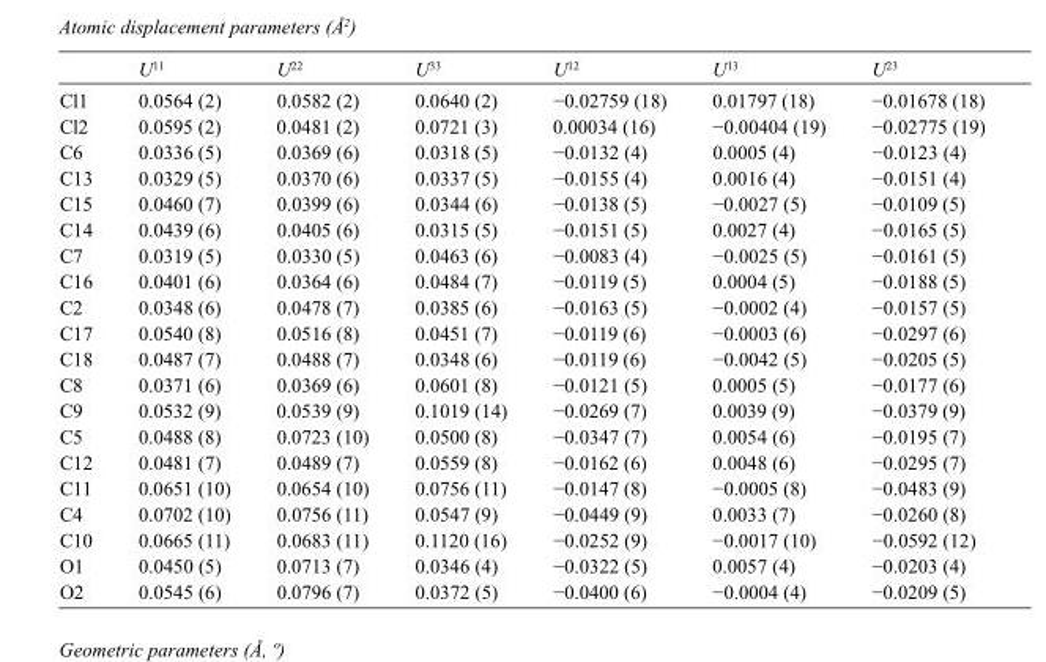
<table><thead><tr><td></td><td>U<sup>11</sup></td><td>U<sup>22</sup></td><td>U<sup>33</sup></td><td>U<sup>12</sup></td><td>U<sup>13</sup></td><td>U<sup>23</sup></td></tr></thead><tbody><tr><td>Cl1</td><td>0.0564 (2)</td><td>0.0582 (2)</td><td>0.0640 (2)</td><td>−0.02759 (18)</td><td>0.01797 (18)</td><td>−0.01678 (18)</td></tr><tr><td>Cl2</td><td>0.0595 (2)</td><td>0.0481 (2)</td><td>0.0721 (3)</td><td>0.00034 (16)</td><td>−0.00404 (19)</td><td>−0.02775 (19)</td></tr><tr><td>C6</td><td>0.0336 (5)</td><td>0.0369 (6)</td><td>0.0318 (5)</td><td>−0.0132 (4)</td><td>0.0005 (4)</td><td>−0.0123 (4)</td></tr><tr><td>C13</td><td>0.0329 (5)</td><td>0.0370 (6)</td><td>0.0337 (5)</td><td>−0.0155 (4)</td><td>0.0016 (4)</td><td>−0.0151 (4)</td></tr><tr><td>C15</td><td>0.0460 (7)</td><td>0.0399 (6)</td><td>0.0344 (6)</td><td>−0.0138 (5)</td><td>−0.0027 (5)</td><td>−0.0109 (5)</td></tr><tr><td>C14</td><td>0.0439 (6)</td><td>0.0405 (6)</td><td>0.0315 (5)</td><td>−0.0151 (5)</td><td>0.0027 (4)</td><td>−0.0165 (5)</td></tr><tr><td>C7</td><td>0.0319 (5)</td><td>0.0330 (5)</td><td>0.0463 (6)</td><td>−0.0083 (4)</td><td>−0.0025 (5)</td><td>−0.0161 (5)</td></tr><tr><td>C16</td><td>0.0401 (6)</td><td>0.0364 (6)</td><td>0.0484 (7)</td><td>−0.0119 (5)</td><td>0.0004 (5)</td><td>−0.0188 (5)</td></tr><tr><td>C2</td><td>0.0348 (6)</td><td>0.0478 (7)</td><td>0.0385 (6)</td><td>−0.0163 (5)</td><td>−0.0002 (4)</td><td>−0.0157 (5)</td></tr><tr><td>C17</td><td>0.0540 (8)</td><td>0.0516 (8)</td><td>0.0451 (7)</td><td>−0.0119 (6)</td><td>−0.0003 (6)</td><td>−0.0297 (6)</td></tr><tr><td>C18</td><td>0.0487 (7)</td><td>0.0488 (7)</td><td>0.0348 (6)</td><td>−0.0119 (6)</td><td>−0.0042 (5)</td><td>−0.0205 (5)</td></tr><tr><td>C8</td><td>0.0371 (6)</td><td>0.0369 (6)</td><td>0.0601 (8)</td><td>−0.0121 (5)</td><td>0.0005 (5)</td><td>−0.0177 (6)</td></tr><tr><td>C9</td><td>0.0532 (9)</td><td>0.0539 (9)</td><td>0.1019 (14)</td><td>−0.0269 (7)</td><td>0.0039 (9)</td><td>−0.0379 (9)</td></tr><tr><td>C5</td><td>0.0488 (8)</td><td>0.0723 (10)</td><td>0.0500 (8)</td><td>−0.0347 (7)</td><td>0.0054 (6)</td><td>−0.0195 (7)</td></tr><tr><td>C12</td><td>0.0481 (7)</td><td>0.0489 (7)</td><td>0.0559 (8)</td><td>−0.0162 (6)</td><td>0.0048 (6)</td><td>−0.0295 (7)</td></tr><tr><td>C11</td><td>0.0651 (10)</td><td>0.0654 (10)</td><td>0.0756 (11)</td><td>−0.0147 (8)</td><td>−0.0005 (8)</td><td>−0.0483 (9)</td></tr><tr><td>C4</td><td>0.0702 (10)</td><td>0.0756 (11)</td><td>0.0547 (9)</td><td>−0.0449 (9)</td><td>0.0033 (7)</td><td>−0.0260 (8)</td></tr><tr><td>C10</td><td>0.0665 (11)</td><td>0.0683 (11)</td><td>0.1120 (16)</td><td>−0.0252 (9)</td><td>−0.0017 (10)</td><td>−0.0592 (12)</td></tr><tr><td>O1</td><td>0.0450 (5)</td><td>0.0713 (7)</td><td>0.0346 (4)</td><td>−0.0322 (5)</td><td>0.0057 (4)</td><td>−0.0203 (4)</td></tr><tr><td>O2</td><td>0.0545 (6)</td><td>0.0796 (7)</td><td>0.0372 (5)</td><td>−0.0400 (6)</td><td>−0.0004 (4)</td><td>−0.0209 (5)</td></tr></tbody></table>